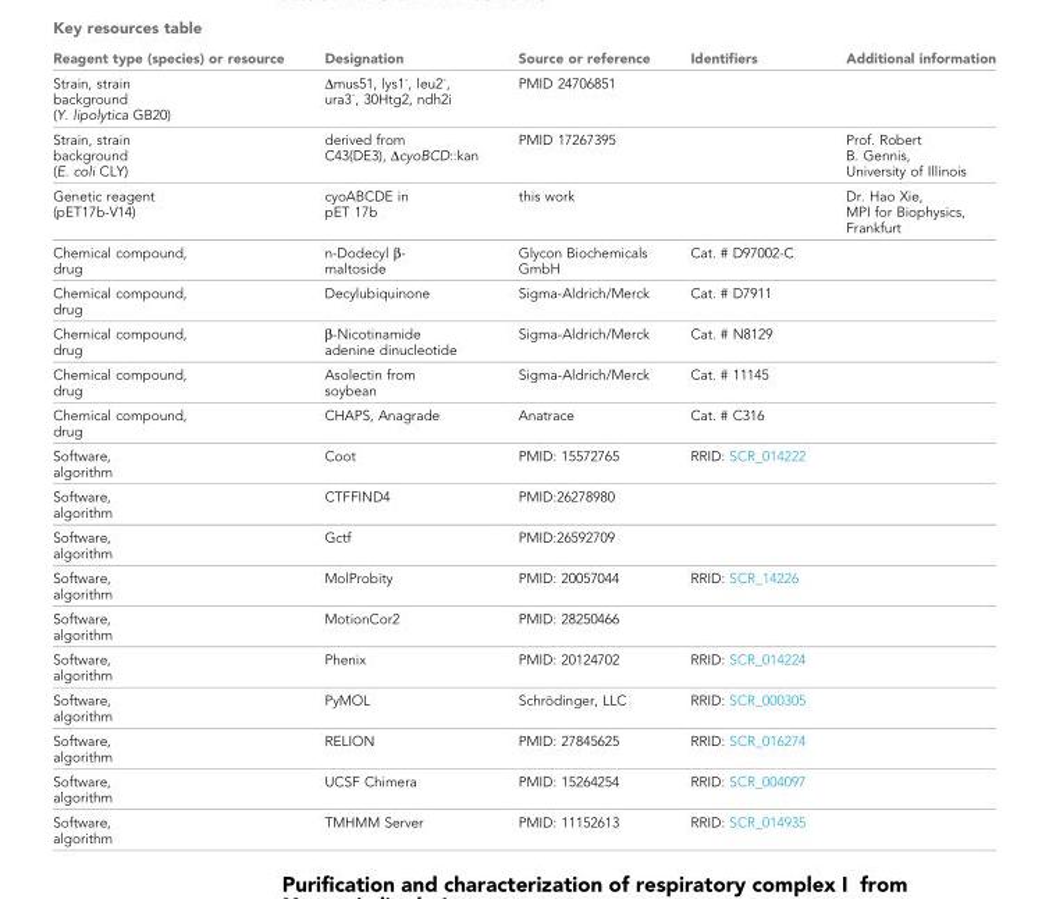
<table><thead><tr><td>Reagent type (species) or resource</td><td>Designation</td><td>Source or reference</td><td>Identifiers</td><td>Additional information</td></tr></thead><tbody><tr><td>Strain, strain background (Y. lipolytica GB20)</td><td>∆mus51, lys1<sup>-</sup>, leu2<sup>-</sup>, ura3<sup>-</sup>, 30Htg2, ndh2i</td><td>PMID 24706851</td><td></td><td></td></tr><tr><td>Strain, strain background (E. coli CLY)</td><td>derived from C43(DE3), ∆cyoBCD::kan</td><td>PMID 17267395</td><td></td><td>Prof. Robert B. Gennis, University of Illinois</td></tr><tr><td>Genetic reagent (pET17b-V14)</td><td>cyoABCDE in pET 17b</td><td>this work</td><td></td><td>Dr. Hao Xie, MPI for Biophysics, Frankfurt</td></tr><tr><td>Chemical compound, drug</td><td>n-Dodecyl β- maltoside</td><td>Glycon Biochemicals GmbH</td><td>Cat. # D97002-C</td><td></td></tr><tr><td>Chemical compound, drug</td><td>Decylubiquinone</td><td>Sigma-Aldrich/Merck</td><td>Cat. # D7911</td><td></td></tr><tr><td>Chemical compound, drug</td><td>β-Nicotinamide adenine dinucleotide</td><td>Sigma-Aldrich/Merck</td><td>Cat. # N8129</td><td></td></tr><tr><td>Chemical compound, drug</td><td>Asolectin from soybean</td><td>Sigma-Aldrich/Merck</td><td>Cat. # 11145</td><td></td></tr><tr><td>Chemical compound, drug</td><td>CHAPS, Anagrade</td><td>Anatrace</td><td>Cat. # C316</td><td></td></tr><tr><td>Software, algorithm</td><td>Coot</td><td>PMID: 15572765</td><td>RRID: SCR_014222</td><td></td></tr><tr><td>Software, algorithm</td><td>CTFFIND4</td><td>PMID:26278980</td><td></td><td></td></tr><tr><td>Software, algorithm</td><td>Gctf</td><td>PMID:26592709</td><td></td><td></td></tr><tr><td>Software, algorithm</td><td>MolProbity</td><td>PMID: 20057044</td><td>RRID: SCR_14226</td><td></td></tr><tr><td>Software, algorithm</td><td>MotionCor2</td><td>PMID: 28250466</td><td></td><td></td></tr><tr><td>Software, algorithm</td><td>Phenix</td><td>PMID: 20124702</td><td>RRID: SCR_014224</td><td></td></tr><tr><td>Software, algorithm</td><td>PyMOL</td><td>Schro¨ dinger, LLC</td><td>RRID: SCR_000305</td><td></td></tr><tr><td>Software, algorithm</td><td>RELION</td><td>PMID: 27845625</td><td>RRID: SCR_016274</td><td></td></tr><tr><td>Software, algorithm</td><td>UCSF Chimera</td><td>PMID: 15264254</td><td>RRID: SCR_004097</td><td></td></tr><tr><td>Software, algorithm</td><td>TMHMM Server</td><td>PMID: 11152613</td><td>RRID: SCR_014935</td><td></td></tr></tbody></table>